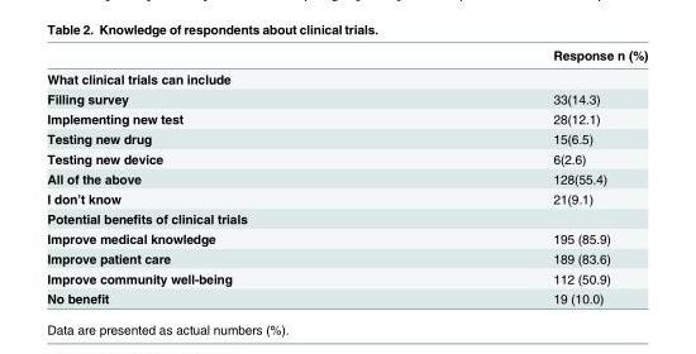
<table><thead><tr><td></td><td>Response n (%)</td></tr></thead><tbody><tr><td colspan="2">What clinical trials can include</td></tr><tr><td>Filling survey</td><td>33(14.3)</td></tr><tr><td>Implementing new test</td><td>28(12.1)</td></tr><tr><td>Testing new drug</td><td>15(6.5)</td></tr><tr><td>Testing new device</td><td>6(2.6)</td></tr><tr><td>All of the above</td><td>128(55.4)</td></tr><tr><td>I don’t know</td><td>21(9.1)</td></tr><tr><td colspan="2">Potential benefits of clinical trials</td></tr><tr><td>Improve medical knowledge</td><td>195 (85.9)</td></tr><tr><td>Improve patient care</td><td>189 (83.6)</td></tr><tr><td>Improve community well-being</td><td>112 (50.9)</td></tr><tr><td>No benefit</td><td>19 (10.0)</td></tr></tbody></table>